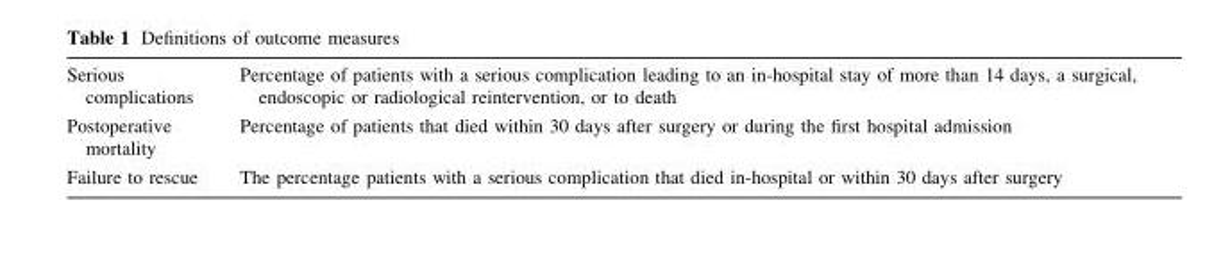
<table><tbody><tr><td>Serious complications</td><td>Percentage of patients with a serious complication leading to an in-hospital stay of more than 14 days, a surgical, endoscopic or radiological reintervention, or to death</td></tr><tr><td>Postoperative mortality</td><td>Percentage of patients that died within 30 days after surgery or during the first hospital admission</td></tr><tr><td>Failure to rescue</td><td>The percentage patients with a serious complication that died in-hospital or within 30 days after surgery</td></tr></tbody></table>